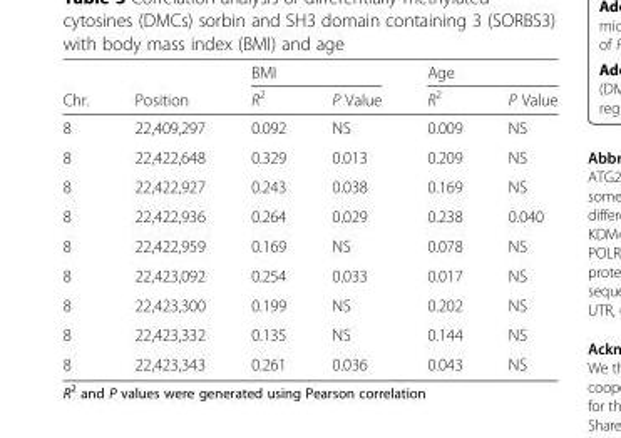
<table><thead><tr><td rowspan="2">Chr.</td><td rowspan="2">Position</td><td colspan="2">BMI</td><td colspan="2">Age</td></tr><tr><td>R<sup>2</sup></td><td>P Value</td><td>R<sup>2</sup></td><td>P Value</td></tr></thead><tbody><tr><td>8</td><td>22,409,297</td><td>0.092</td><td>NS</td><td>0.009</td><td>NS</td></tr><tr><td>8</td><td>22,422,648</td><td>0.329</td><td>0.013</td><td>0.209</td><td>NS</td></tr><tr><td>8</td><td>22,422,927</td><td>0.243</td><td>0.038</td><td>0.169</td><td>NS</td></tr><tr><td>8</td><td>22,422,936</td><td>0.264</td><td>0.029</td><td>0.238</td><td>0.040</td></tr><tr><td>8</td><td>22,422,959</td><td>0.169</td><td>NS</td><td>0.078</td><td>NS</td></tr><tr><td>8</td><td>22,423,092</td><td>0.254</td><td>0.033</td><td>0.017</td><td>NS</td></tr><tr><td>8</td><td>22,423,300</td><td>0.199</td><td>NS</td><td>0.202</td><td>NS</td></tr><tr><td>8</td><td>22,423,332</td><td>0.135</td><td>NS</td><td>0.144</td><td>NS</td></tr><tr><td>8</td><td>22,423,343</td><td>0.261</td><td>0.036</td><td>0.043</td><td>NS</td></tr></tbody></table>